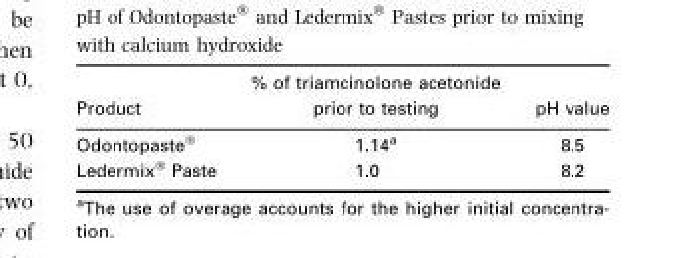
<table><thead><tr><td>Product</td><td>% of triamcinolone acetonide prior to testing</td><td>pH value</td></tr></thead><tbody><tr><td>Odontopaste®</td><td>1.14<sup>a</sup></td><td>8.5</td></tr><tr><td>Ledermix® Paste</td><td>1.0</td><td>8.2</td></tr></tbody></table>